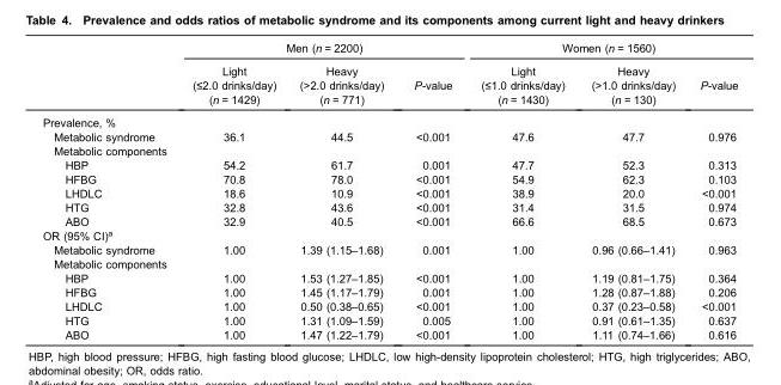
<table><thead><tr><td rowspan="2"></td><td colspan="3">Men (n = 2200)</td><td colspan="3">Women (n = 1560)</td></tr><tr><td>Light (≤2.0 drinks/day) (n = 1429)</td><td>Heavy (&gt;2.0 drinks/day) (n = 771)</td><td>P-value</td><td>Light (≤1.0 drinks/day) (n = 1430)</td><td>Heavy (&gt;1.0 drinks/day) (n = 130)</td><td>P-value</td></tr></thead><tbody><tr><td colspan="7">Prevalence, %</td></tr><tr><td>Metabolic syndrome</td><td>36.1</td><td>44.5</td><td>&lt;0.001</td><td>47.6</td><td>47.7</td><td>0.976</td></tr><tr><td colspan="7">Metabolic components</td></tr><tr><td>HBP</td><td>54.2</td><td>61.7</td><td>0.001</td><td>47.7</td><td>52.3</td><td>0.313</td></tr><tr><td>HFBG</td><td>70.8</td><td>78.0</td><td>&lt;0.001</td><td>54.9</td><td>62.3</td><td>0.103</td></tr><tr><td>LHDLC</td><td>18.6</td><td>10.9</td><td>&lt;0.001</td><td>38.9</td><td>20.0</td><td>&lt;0.001</td></tr><tr><td>HTG</td><td>32.8</td><td>43.6</td><td>&lt;0.001</td><td>31.4</td><td>31.5</td><td>0.974</td></tr><tr><td>ABO</td><td>32.9</td><td>40.5</td><td>&lt;0.001</td><td>66.6</td><td>68.5</td><td>0.673</td></tr><tr><td colspan="7">OR (95% CI)<sup>a</sup></td></tr><tr><td>Metabolic syndrome</td><td>1.00</td><td>1.39 (1.15–1.68)</td><td>0.001</td><td>1.00</td><td>0.96 (0.66–1.41)</td><td>0.963</td></tr><tr><td colspan="7">Metabolic components</td></tr><tr><td>HBP</td><td>1.00</td><td>1.53 (1.27–1.85)</td><td>&lt;0.001</td><td>1.00</td><td>1.19 (0.81–1.75)</td><td>0.364</td></tr><tr><td>HFBG</td><td>1.00</td><td>1.45 (1.17–1.79)</td><td>0.001</td><td>1.00</td><td>1.28 (0.87–1.88)</td><td>0.206</td></tr><tr><td>LHDLC</td><td>1.00</td><td>0.50 (0.38–0.65)</td><td>&lt;0.001</td><td>1.00</td><td>0.37 (0.23–0.58)</td><td>&lt;0.001</td></tr><tr><td>HTG</td><td>1.00</td><td>1.31 (1.09–1.59)</td><td>0.005</td><td>1.00</td><td>0.91 (0.61–1.35)</td><td>0.637</td></tr><tr><td>ABO</td><td>1.00</td><td>1.47 (1.22–1.79)</td><td>&lt;0.001</td><td>1.00</td><td>1.11 (0.74–1.66)</td><td>0.616</td></tr></tbody></table>